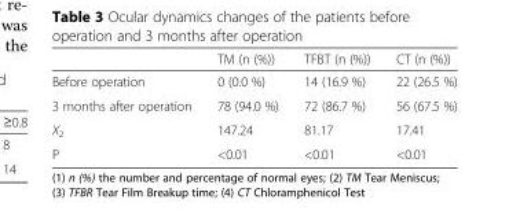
<table><thead><tr><td></td><td>TM (n (%))</td><td>TFBT (n (%))</td><td>CT (n (%))</td></tr></thead><tbody><tr><td>Before operation</td><td>0 (0.0 %)</td><td>14 (16.9 %)</td><td>22 (26.5 %)</td></tr><tr><td>3 months after operation</td><td>78 (94.0 %)</td><td>72 (86.7 %)</td><td>56 (67.5 %)</td></tr><tr><td>X<sub>2</sub></td><td>147.24</td><td>81.17</td><td>17.41</td></tr><tr><td>P</td><td>&lt;0.01</td><td>&lt;0.01</td><td>&lt;0.01</td></tr></tbody></table>